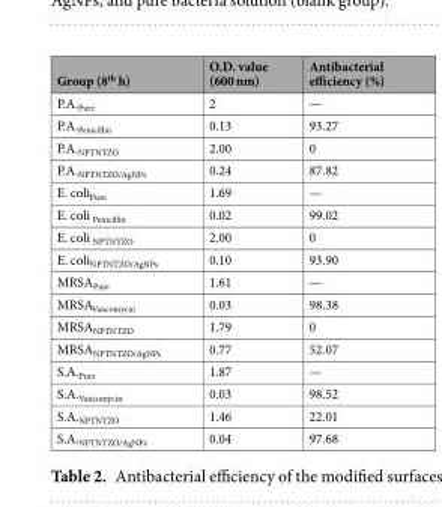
<table><thead><tr><td>Group (8<sup>th</sup> h)</td><td>O.D. value (600 nm)</td><td>Antibacterial efficiency (%)</td></tr></thead><tbody><tr><td>P.A.<sub>Pure</sub></td><td>2</td><td>—</td></tr><tr><td>P.A.<sub>Penicillin</sub></td><td>0.13</td><td>93.27</td></tr><tr><td>P.A.<sub>NPTNTZO</sub></td><td>2.00</td><td>0</td></tr><tr><td>P.A.<sub>NPTNTZO/AgNPs</sub></td><td>0.24</td><td>87.82</td></tr><tr><td>E. coli<sub>Pure</sub></td><td>1.69</td><td>—</td></tr><tr><td>E. coli <sub>Penicillin</sub></td><td>0.02</td><td>99.02</td></tr><tr><td>E. coli <sub>NPTNTZO</sub></td><td>2.00</td><td>0</td></tr><tr><td>E. coli<sub>NPTNTZO/AgNPs</sub></td><td>0.10</td><td>93.90</td></tr><tr><td>MRSA<sub>Pure</sub></td><td>1.61</td><td>—</td></tr><tr><td>MRSA<sub>Vancomycin</sub></td><td>0.03</td><td>98.38</td></tr><tr><td>MRSA<sub>NPTNTZO</sub></td><td>1.79</td><td>0</td></tr><tr><td>MRSA<sub>NPTNTZO/AgNPs</sub></td><td>0.77</td><td>52.07</td></tr><tr><td>S.A.<sub>Pure</sub></td><td>1.87</td><td>—</td></tr><tr><td>S.A.<sub>Vancomycin</sub></td><td>0.03</td><td>98.52</td></tr><tr><td>S.A.<sub>NPTNTZO</sub></td><td>1.46</td><td>22.01</td></tr><tr><td>S.A.<sub>NPTNTZO/AgNPs</sub></td><td>0.04</td><td>97.68</td></tr></tbody></table>